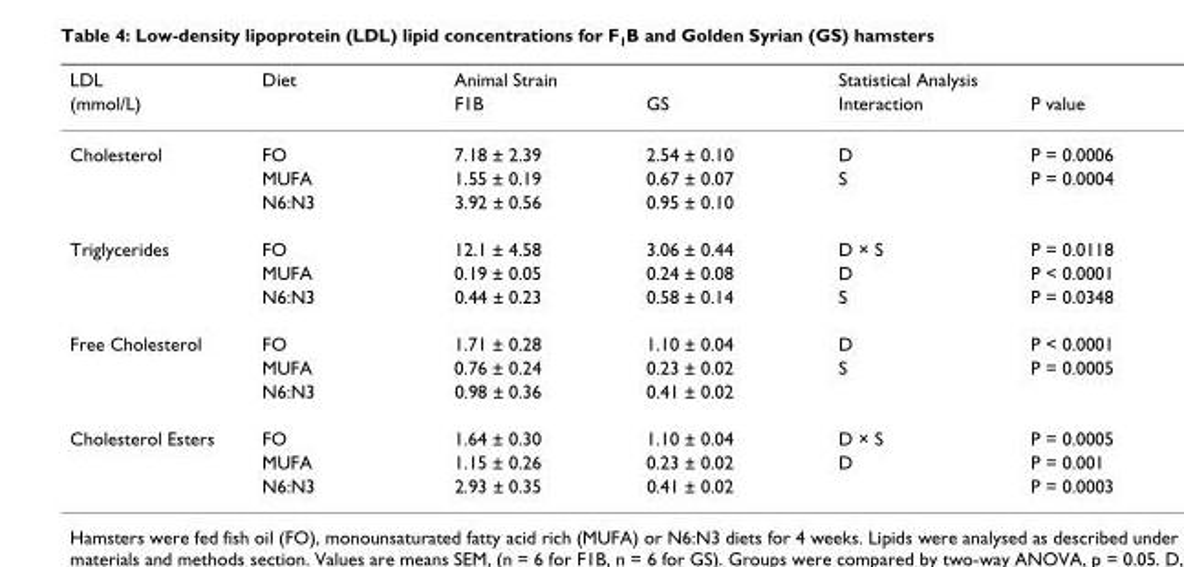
<table><thead><tr><td rowspan="2">LDL (mmol/L)</td><td rowspan="2">Diet</td><td colspan="2">Animal Strain</td><td colspan="2">Statistical Analysis</td></tr><tr><td>F1B</td><td>GS</td><td>Interaction</td><td>P value</td></tr></thead><tbody><tr><td rowspan="3">Cholesterol</td><td>FO</td><td>7.18 ± 2.39</td><td>2.54 ± 0.10</td><td>D</td><td>P = 0.0006</td></tr><tr><td>MUFA</td><td>1.55 ± 0.19</td><td>0.67 ± 0.07</td><td>S</td><td>P = 0.0004</td></tr><tr><td>N6:N3</td><td>3.92 ± 0.56</td><td>0.95 ± 0.10</td><td></td><td></td></tr><tr><td rowspan="3">Triglycerides</td><td>FO</td><td>12.1 ± 4.58</td><td>3.06 ± 0.44</td><td>D × S</td><td>P = 0.0118</td></tr><tr><td>MUFA</td><td>0.19 ± 0.05</td><td>0.24 ± 0.08</td><td>D</td><td>P &lt; 0.0001</td></tr><tr><td>N6:N3</td><td>0.44 ± 0.23</td><td>0.58 ± 0.14</td><td>S</td><td>P = 0.0348</td></tr><tr><td rowspan="3">Free Cholesterol</td><td>FO</td><td>1.71 ± 0.28</td><td>1.10 ± 0.04</td><td>D</td><td>P &lt; 0.0001</td></tr><tr><td>MUFA</td><td>0.76 ± 0.24</td><td>0.23 ± 0.02</td><td>S</td><td>P = 0.0005</td></tr><tr><td>N6:N3</td><td>0.98 ± 0.36</td><td>0.41 ± 0.02</td><td></td><td></td></tr><tr><td rowspan="3">Cholesterol Esters</td><td>FO</td><td>1.64 ± 0.30</td><td>1.10 ± 0.04</td><td>D × S</td><td>P = 0.0005</td></tr><tr><td>MUFA</td><td>1.15 ± 0.26</td><td>0.23 ± 0.02</td><td>D</td><td>P = 0.001</td></tr><tr><td>N6:N3</td><td>2.93 ± 0.35</td><td>0.41 ± 0.02</td><td></td><td>P = 0.0003</td></tr></tbody></table>